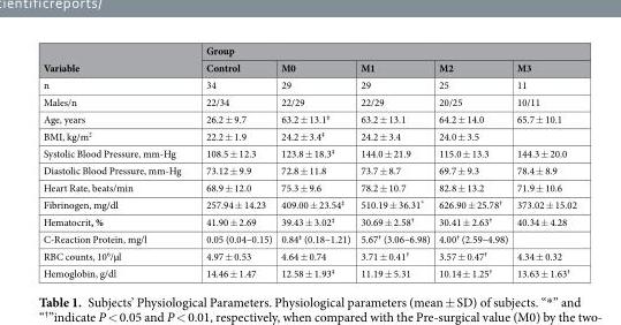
<table><thead><tr><td rowspan="2">Variable</td><td colspan="5">Group</td></tr><tr><td>Control</td><td>M0</td><td>M1</td><td>M2</td><td>M3</td></tr></thead><tbody><tr><td>n</td><td>34</td><td>29</td><td>29</td><td>25</td><td>11</td></tr><tr><td>Males/n</td><td>22/34</td><td>22/29</td><td>22/29</td><td>20/25</td><td>10/11</td></tr><tr><td>Age, years</td><td>26.2 ± 9.7</td><td>63.2 ± 13.1<sup>‡</sup></td><td>63.2 ± 13.1</td><td>64.2 ± 14.0</td><td>65.7 ± 10.1</td></tr><tr><td>BMI, kg/m<sup>2</sup></td><td>22.2 ± 1.9</td><td>24.2 ± 3.4<sup>‡</sup></td><td>24.2 ± 3.4</td><td>24.0 ± 3.5</td><td></td></tr><tr><td>Systolic Blood Pressure, mm-Hg</td><td>108.5 ± 12.3</td><td>123.8 ± 18.3<sup>‡</sup></td><td>144.0 ± 21.9</td><td>115.0 ± 13.3</td><td>144.3 ± 20.0</td></tr><tr><td>Diastolic Blood Pressure, mm-Hg</td><td>73.12 ± 9.9</td><td>72.8 ± 11.8</td><td>73.7 ± 8.7</td><td>69.7 ± 9.3</td><td>78.4 ± 8.9</td></tr><tr><td>Heart Rate, beats/min</td><td>68.9 ± 12.0</td><td>75.3 ± 9.6</td><td>78.2 ± 10.7</td><td>82.8 ± 13.2</td><td>71.9 ± 10.6</td></tr><tr><td>Fibrinogen, mg/dl</td><td>257.94 ± 14.23</td><td>409.00 ± 23.54<sup>‡</sup></td><td>510.19 ± 36.31*</td><td>626.90 ± 25.78<sup>†</sup></td><td>373.02 ± 15.02</td></tr><tr><td>Hematocrit, %</td><td>41.90 ± 2.69</td><td>39.43 ± 3.02<sup>‡</sup></td><td>30.69 ± 2.58<sup>†</sup></td><td>30.41 ± 2.63<sup>†</sup></td><td>40.34 ± 4.28</td></tr><tr><td>C-Reaction Protein, mg/l</td><td>0.05 (0.04–0.15)</td><td>0.84<sup>‡</sup> (0.18–1.21)</td><td>5.67<sup>†</sup> (3.06–6.98)</td><td>4.00<sup>†</sup> (2.59–4.98)</td><td></td></tr><tr><td>RBC counts, 10<sup>6</sup>/µl</td><td>4.97 ± 0.53</td><td>4.64 ± 0.74</td><td>3.71 ± 0.41<sup>†</sup></td><td>3.57 ± 0.47<sup>†</sup></td><td>4.34 ± 0.32</td></tr><tr><td>Hemoglobin, g/dl</td><td>14.46 ± 1.47</td><td>12.58 ± 1.93<sup>‡</sup></td><td>11.19 ± 5.31</td><td>10.14 ± 1.25<sup>†</sup></td><td>13.63 ± 1.63<sup>†</sup></td></tr></tbody></table>